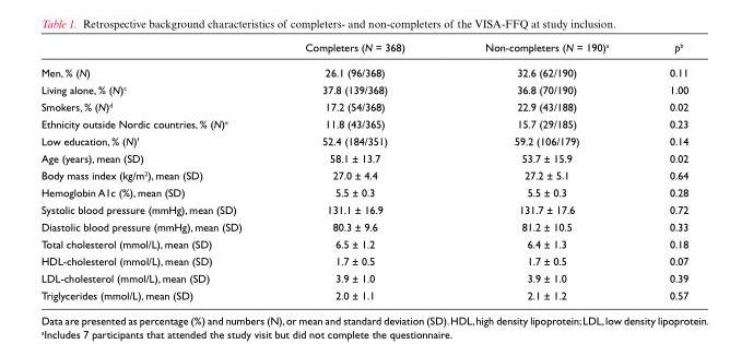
<table><thead><tr><td></td><td>Completers (N = 368)</td><td>Non-completers (N = 190)<sup>a</sup></td><td>p<sup>b</sup></td></tr></thead><tbody><tr><td>Men, % (N)</td><td>26.1 (96/368)</td><td>32.6 (62/190)</td><td>0.11</td></tr><tr><td>Living alone, % (N)<sup>c</sup></td><td>37.8 (139/368)</td><td>36.8 (70/190)</td><td>1.00</td></tr><tr><td>Smokers, % (N)<sup>d</sup></td><td>17.2 (54/368)</td><td>22.9 (43/188)</td><td>0.02</td></tr><tr><td>Ethnicity outside Nordic countries, % (N)<sup>e</sup></td><td>11.8 (43/365)</td><td>15.7 (29/185)</td><td>0.23</td></tr><tr><td>Low education, % (N)<sup>f</sup></td><td>52.4 (184/351)</td><td>59.2 (106/179)</td><td>0.14</td></tr><tr><td>Age (years), mean (SD)</td><td>58.1 ± 13.7</td><td>53.7 ± 15.9</td><td>0.02</td></tr><tr><td>Body mass index (kg/m<sup>2</sup>), mean (SD)</td><td>27.0 ± 4.4</td><td>27.2 ± 5.1</td><td>0.64</td></tr><tr><td>Hemoglobin A1c (%), mean (SD)</td><td>5.5 ± 0.3</td><td>5.5 ± 0.3</td><td>0.28</td></tr><tr><td>Systolic blood pressure (mmHg), mean (SD)</td><td>131.1 ± 16.9</td><td>131.7 ± 17.6</td><td>0.72</td></tr><tr><td>Diastolic blood pressure (mmHg), mean (SD)</td><td>80.3 ± 9.6</td><td>81.2 ± 10.5</td><td>0.33</td></tr><tr><td>Total cholesterol (mmol/L), mean (SD)</td><td>6.5 ± 1.2</td><td>6.4 ± 1.3</td><td>0.18</td></tr><tr><td>HDL-cholesterol (mmol/L), mean (SD)</td><td>1.7 ± 0.5</td><td>1.7 ± 0.5</td><td>0.07</td></tr><tr><td>LDL-cholesterol (mmol/L), mean (SD)</td><td>3.9 ± 1.0</td><td>3.9 ± 1.0</td><td>0.39</td></tr><tr><td>Triglycerides (mmol/L), mean (SD)</td><td>2.0 ± 1.1</td><td>2.1 ± 1.2</td><td>0.57</td></tr></tbody></table>